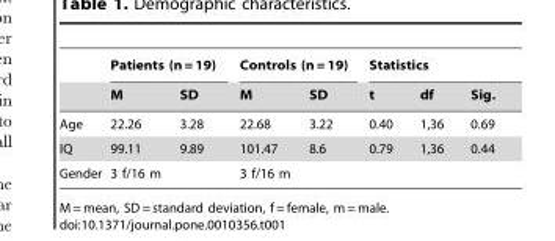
<table><thead><tr><td rowspan="2"></td><td colspan="2">Patients (n = 19)</td><td colspan="2">Controls (n = 19)</td><td colspan="3">Statistics</td></tr><tr><td>M</td><td>SD</td><td>M</td><td>SD</td><td>t</td><td>df</td><td>Sig.</td></tr></thead><tbody><tr><td>Age</td><td>22.26</td><td>3.28</td><td>22.68</td><td>3.22</td><td>0.40</td><td>1,36</td><td>0.69</td></tr><tr><td>IQ</td><td>99.11</td><td>9.89</td><td>101.47</td><td>8.6</td><td>0.79</td><td>1,36</td><td>0.44</td></tr><tr><td>Gender</td><td>3 f/16 m</td><td></td><td>3 f/16 m</td><td></td><td></td><td></td><td></td></tr></tbody></table>